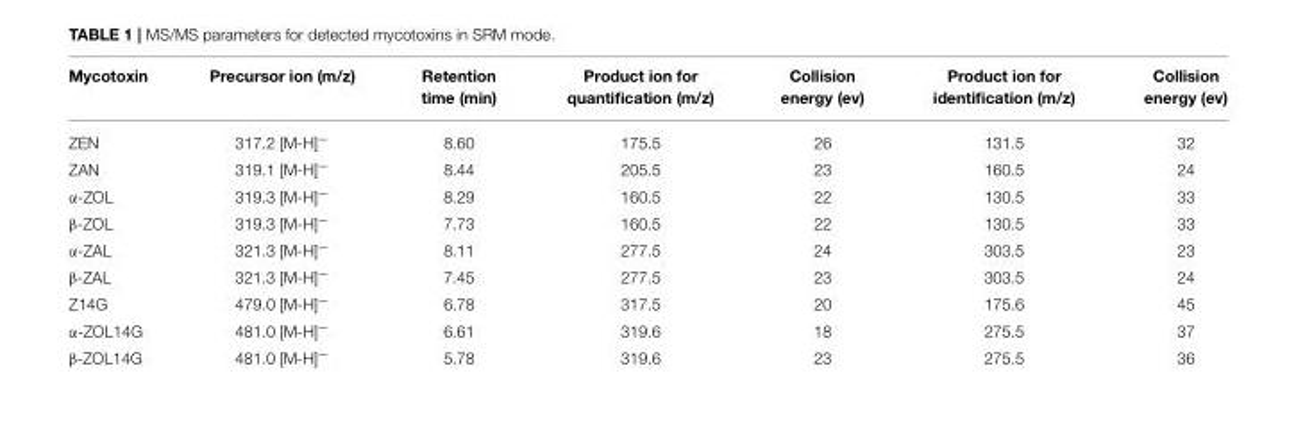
<table><thead><tr><td>Mycotoxin</td><td>Precursor ion (m/z)</td><td>Retention time (min)</td><td>Product ion for quantification (m/z)</td><td>Collision energy (ev)</td><td>Product ion for identification (m/z)</td><td>Collision energy (ev)</td></tr></thead><tbody><tr><td>ZEN</td><td>317.2 [M-H]<sup>−</sup></td><td>8.60</td><td>175.5</td><td>26</td><td>131.5</td><td>32</td></tr><tr><td>ZAN</td><td>319.1 [M-H]<sup>−</sup></td><td>8.44</td><td>205.5</td><td>23</td><td>160.5</td><td>24</td></tr><tr><td>α-ZOL</td><td>319.3 [M-H]<sup>−</sup></td><td>8.29</td><td>160.5</td><td>22</td><td>130.5</td><td>33</td></tr><tr><td>β-ZOL</td><td>319.3 [M-H]<sup>−</sup></td><td>7.73</td><td>160.5</td><td>22</td><td>130.5</td><td>33</td></tr><tr><td>α-ZAL</td><td>321.3 [M-H]<sup>−</sup></td><td>8.11</td><td>277.5</td><td>24</td><td>303.5</td><td>23</td></tr><tr><td>β-ZAL</td><td>321.3 [M-H]<sup>−</sup></td><td>7.45</td><td>277.5</td><td>23</td><td>303.5</td><td>24</td></tr><tr><td>Z14G</td><td>479.0 [M-H]<sup>−</sup></td><td>6.78</td><td>317.5</td><td>20</td><td>175.6</td><td>45</td></tr><tr><td>α-ZOL14G</td><td>481.0 [M-H]<sup>−</sup></td><td>6.61</td><td>319.6</td><td>18</td><td>275.5</td><td>37</td></tr><tr><td>β-ZOL14G</td><td>481.0 [M-H]<sup>−</sup></td><td>5.78</td><td>319.6</td><td>23</td><td>275.5</td><td>36</td></tr></tbody></table>